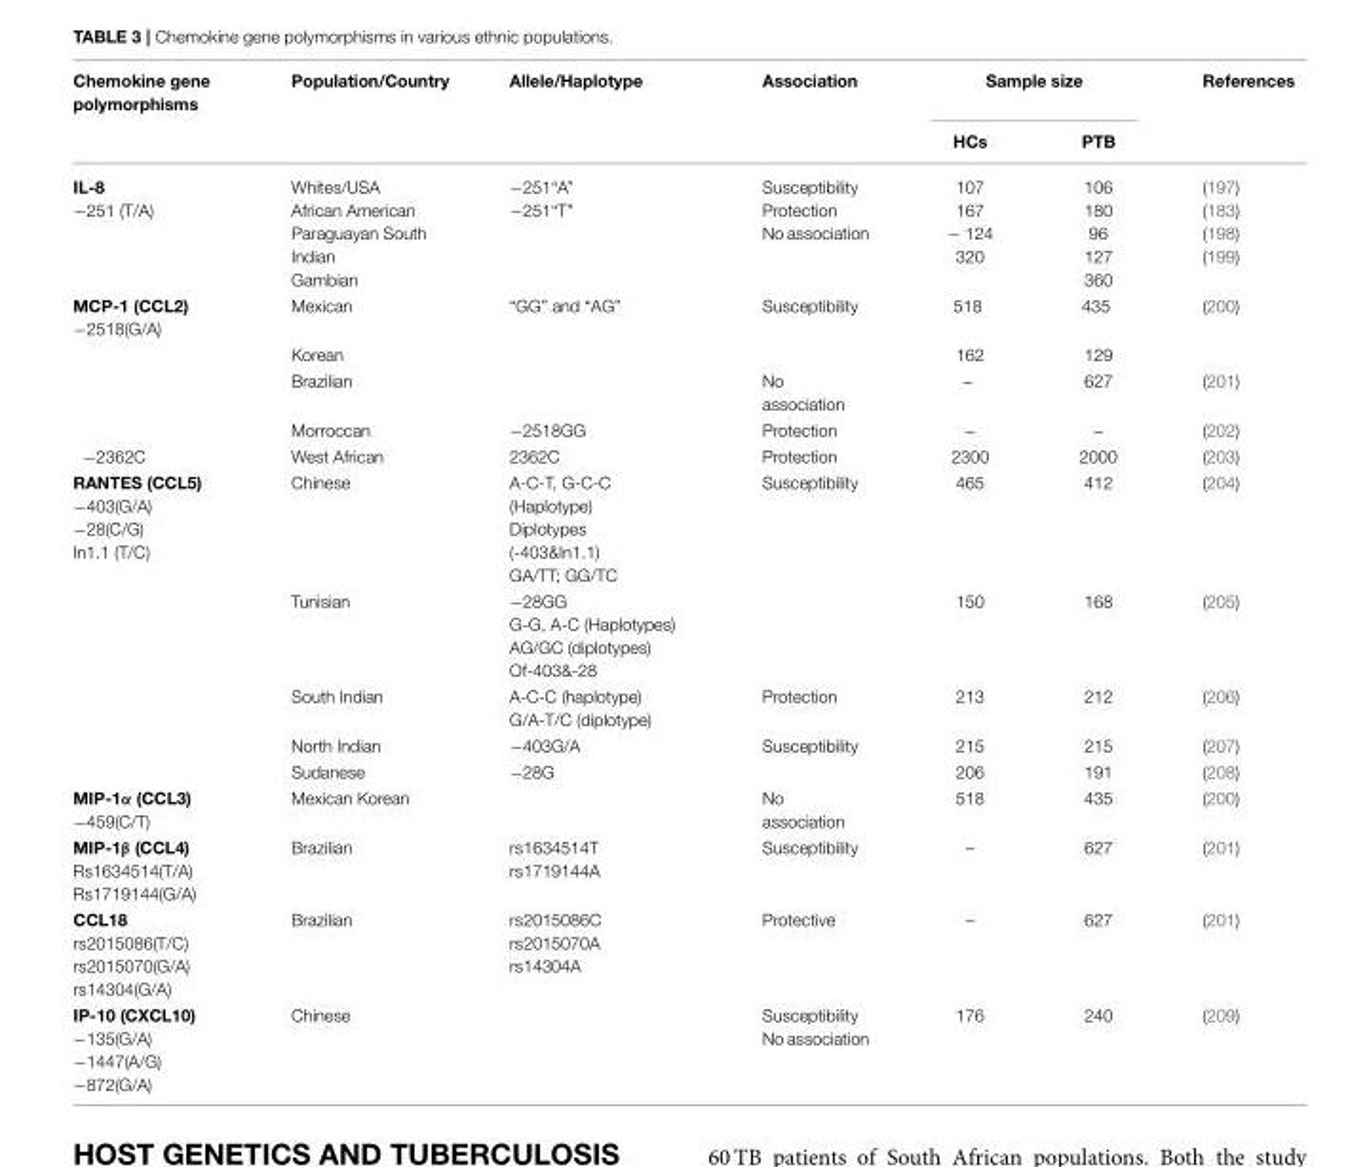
<table><thead><tr><td rowspan="2">Chemokine gene polymorphisms</td><td rowspan="2">Population/Country</td><td rowspan="2">Allele/Haplotype</td><td rowspan="2">Association</td><td colspan="2">Sample size</td><td rowspan="2">References</td></tr><tr><td>HCs</td><td>PTB</td></tr></thead><tbody><tr><td>IL-8 −251 (T/A)</td><td>Whites/USA African American Paraguayan South Indian Gambian</td><td>−251“A” −251“T”</td><td>Susceptibility Protection No association</td><td>107 167 − 124 320</td><td>106 180 96 127 360</td><td>(197) (183) (198) (199)</td></tr><tr><td rowspan="4">MCP-1 (CCL2) −2518(G/A)</td><td>Mexican</td><td>“GG” and “AG”</td><td>Susceptibility</td><td>518</td><td>435</td><td>(200)</td></tr><tr><td>Korean</td><td></td><td></td><td>162</td><td>129</td><td></td></tr><tr><td>Brazilian</td><td></td><td>No association</td><td>–</td><td>627</td><td>(201)</td></tr><tr><td>Morroccan</td><td>−2518GG</td><td>Protection</td><td>–</td><td>–</td><td>(202)</td></tr><tr><td>−2362C</td><td>West African</td><td>2362C</td><td>Protection</td><td>2300</td><td>2000</td><td>(203)</td></tr><tr><td rowspan="5">RANTES (CCL5) −403(G/A) −28(C/G) In1.1 (T/C)</td><td>Chinese</td><td>A-C-T, G-C-C (Haplotype) Diplotypes (-403&amp;In1.1) GA/TT; GG/TC</td><td>Susceptibility</td><td>465</td><td>412</td><td>(204)</td></tr><tr><td>Tunisian</td><td>−28GG G-G, A-C (Haplotypes) AG/GC (diplotypes) Of-403&amp;-28</td><td></td><td>150</td><td>168</td><td>(205)</td></tr><tr><td>South Indian</td><td>A-C-C (haplotype) G/A-T/C (diplotype)</td><td>Protection</td><td>213</td><td>212</td><td>(206)</td></tr><tr><td>North Indian</td><td>−403G/A</td><td>Susceptibility</td><td>215</td><td>215</td><td>(207)</td></tr><tr><td>Sudanese</td><td>−28G</td><td></td><td>206</td><td>191</td><td>(208)</td></tr><tr><td>MIP-1α (CCL3) −459(C/T)</td><td>Mexican Korean</td><td></td><td>No association</td><td>518</td><td>435</td><td>(200)</td></tr><tr><td>MIP-1β (CCL4) Rs1634514(T/A) Rs1719144(G/A)</td><td>Brazilian</td><td>rs1634514T rs1719144A</td><td>Susceptibility</td><td>–</td><td>627</td><td>(201)</td></tr><tr><td>CCL18 rs2015086(T/C) rs2015070(G/A) rs14304(G/A)</td><td>Brazilian</td><td>rs2015086C rs2015070A rs14304A</td><td>Protective</td><td>–</td><td>627</td><td>(201)</td></tr><tr><td>IP-10 (CXCL10) −135(G/A) −1447(A/G) −872(G/A)</td><td>Chinese</td><td></td><td>Susceptibility No association</td><td>176</td><td>240</td><td>(209)</td></tr></tbody></table>